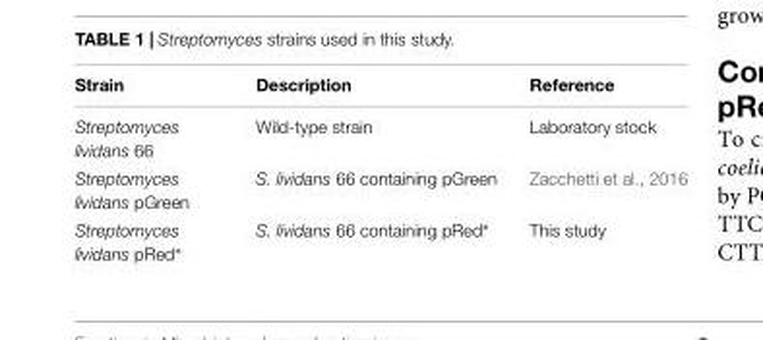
<table><thead><tr><td>Strain</td><td>Description</td><td>Reference</td></tr></thead><tbody><tr><td>Streptomyces lividans 66</td><td>Wild-type strain</td><td>Laboratory stock</td></tr><tr><td>Streptomyces lividans pGreen</td><td>S. lividans 66 containing pGreen</td><td>Zacchetti et al., 2016</td></tr><tr><td>Streptomyces lividans pRed∗</td><td>S. lividans 66 containing pRed∗</td><td>This study</td></tr></tbody></table>